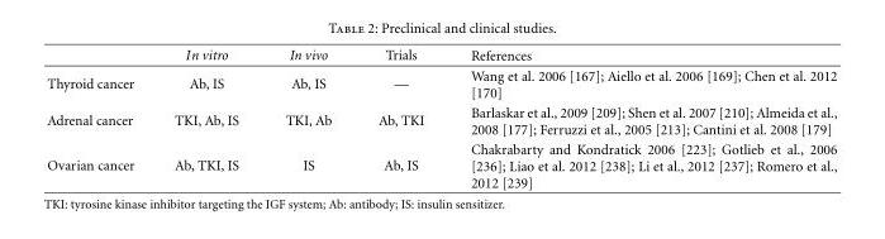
<table><thead><tr><td></td><td>In vitro</td><td>In vivo</td><td>Trials</td><td>References</td></tr></thead><tbody><tr><td>Thyroid cancer</td><td>Ab, IS</td><td>Ab, IS</td><td>—</td><td>Wang et al. 2006 [167]; Aiello et al. 2006 [169]; Chen et al. 2012 [170]</td></tr><tr><td>Adrenal cancer</td><td>TKI, Ab, IS</td><td>TKI, Ab</td><td>Ab, TKI</td><td>Barlaskar et al., 2009 [209]; Shen et al. 2007 [210]; Almeida et al., 2008 [177]; Ferruzzi et al., 2005 [213]; Cantini et al. 2008 [179]</td></tr><tr><td>Ovarian cancer</td><td>Ab, TKI, IS</td><td>IS</td><td>Ab, IS</td><td>Chakrabarty and Kondratick 2006 [223]; Gotlieb et al., 2006 [236]; Liao et al. 2012 [238]; Li et al., 2012 [237]; Romero et al., 2012 [239]</td></tr></tbody></table>